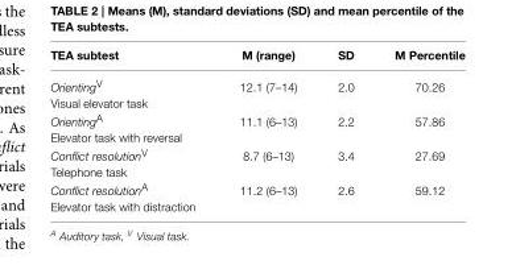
<table><thead><tr><td>TEA subtest</td><td>M (range)</td><td>SD</td><td>M Percentile</td></tr></thead><tbody><tr><td>Orienting<sup>V</sup> Visual elevator task</td><td>12.1 (7–14)</td><td>2.0</td><td>70.26</td></tr><tr><td>Orienting<sup>A</sup> Elevator task with reversal</td><td>11.1 (6–13)</td><td>2.2</td><td>57.86</td></tr><tr><td>Conflict resolution<sup>V</sup> Telephone task</td><td>8.7 (6–13)</td><td>3.4</td><td>27.69</td></tr><tr><td>Conflict resolution<sup>A</sup> Elevator task with distraction</td><td>11.2 (6–13)</td><td>2.6</td><td>59.12</td></tr></tbody></table>